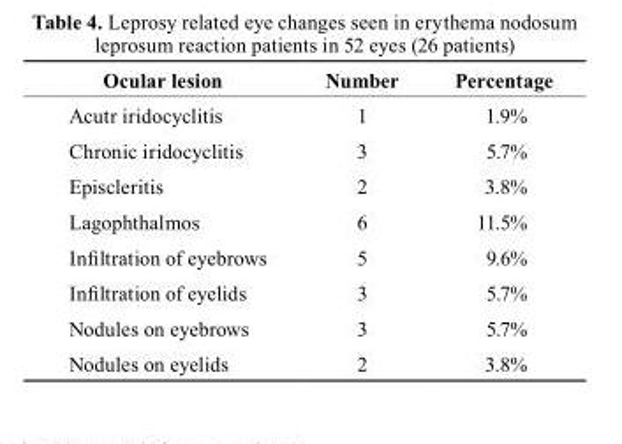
<table><thead><tr><td>Ocular lesion</td><td>Number</td><td>Percentage</td></tr></thead><tbody><tr><td>Acutr iridocyclitis</td><td>1</td><td>1.9%</td></tr><tr><td>Chronic iridocyclitis</td><td>3</td><td>5.7%</td></tr><tr><td>Episcleritis</td><td>2</td><td>3.8%</td></tr><tr><td>Lagophthalmos</td><td>6</td><td>11.5%</td></tr><tr><td>Infiltration of eyebrows</td><td>5</td><td>9.6%</td></tr><tr><td>Infiltration of eyelids</td><td>3</td><td>5.7%</td></tr><tr><td>Nodules on eyebrows</td><td>3</td><td>5.7%</td></tr><tr><td>Nodules on eyelids</td><td>2</td><td>3.8%</td></tr></tbody></table>